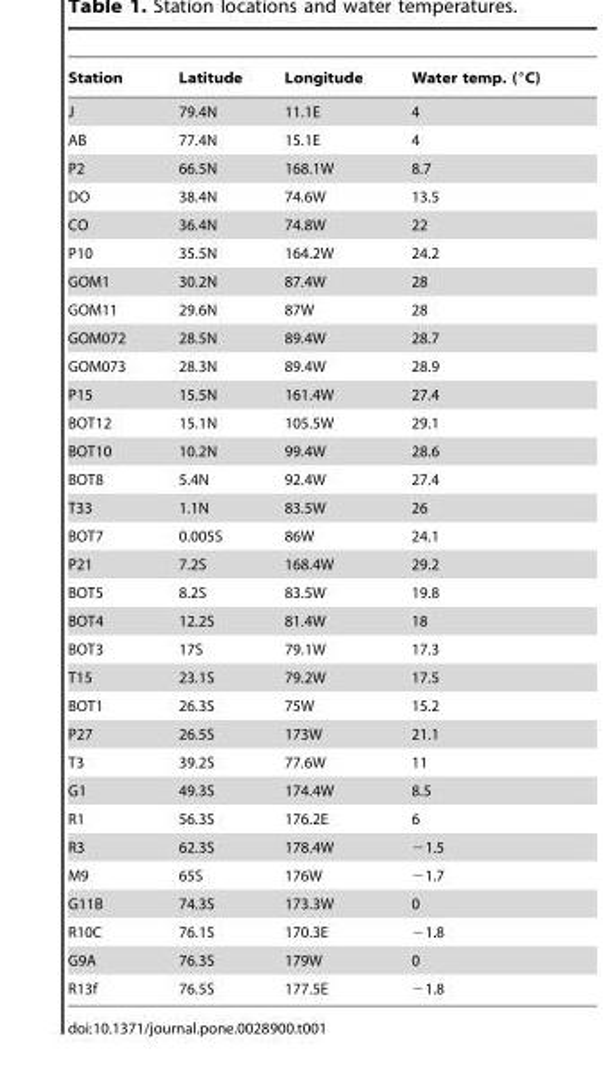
<table><thead><tr><td>Station</td><td>Latitude</td><td>Longitude</td><td>Water temp. (°C)</td></tr></thead><tbody><tr><td>J</td><td>79.4N</td><td>11.1E</td><td>4</td></tr><tr><td>AB</td><td>77.4N</td><td>15.1E</td><td>4</td></tr><tr><td>P2</td><td>66.5N</td><td>168.1W</td><td>8.7</td></tr><tr><td>DO</td><td>38.4N</td><td>74.6W</td><td>13.5</td></tr><tr><td>CO</td><td>36.4N</td><td>74.8W</td><td>22</td></tr><tr><td>P10</td><td>35.5N</td><td>164.2W</td><td>24.2</td></tr><tr><td>GOM1</td><td>30.2N</td><td>87.4W</td><td>28</td></tr><tr><td>GOM11</td><td>29.6N</td><td>87W</td><td>28</td></tr><tr><td>GOM072</td><td>28.5N</td><td>89.4W</td><td>28.7</td></tr><tr><td>GOM073</td><td>28.3N</td><td>89.4W</td><td>28.9</td></tr><tr><td>P15</td><td>15.5N</td><td>161.4W</td><td>27.4</td></tr><tr><td>BOT12</td><td>15.1N</td><td>105.5W</td><td>29.1</td></tr><tr><td>BOT10</td><td>10.2N</td><td>99.4W</td><td>28.6</td></tr><tr><td>BOT8</td><td>5.4N</td><td>92.4W</td><td>27.4</td></tr><tr><td>T33</td><td>1.1N</td><td>83.5W</td><td>26</td></tr><tr><td>BOT7</td><td>0.005S</td><td>86W</td><td>24.1</td></tr><tr><td>P21</td><td>7.2S</td><td>168.4W</td><td>29.2</td></tr><tr><td>BOT5</td><td>8.2S</td><td>83.5W</td><td>19.8</td></tr><tr><td>BOT4</td><td>12.2S</td><td>81.4W</td><td>18</td></tr><tr><td>BOT3</td><td>17S</td><td>79.1W</td><td>17.3</td></tr><tr><td>T15</td><td>23.1S</td><td>79.2W</td><td>17.5</td></tr><tr><td>BOT1</td><td>26.3S</td><td>75W</td><td>15.2</td></tr><tr><td>P27</td><td>26.5S</td><td>173W</td><td>21.1</td></tr><tr><td>T3</td><td>39.2S</td><td>77.6W</td><td>11</td></tr><tr><td>G1</td><td>49.3S</td><td>174.4W</td><td>8.5</td></tr><tr><td>R1</td><td>56.3S</td><td>176.2E</td><td>6</td></tr><tr><td>R3</td><td>62.3S</td><td>178.4W</td><td>−1.5</td></tr><tr><td>M9</td><td>65S</td><td>176W</td><td>−1.7</td></tr><tr><td>G11B</td><td>74.3S</td><td>173.3W</td><td>0</td></tr><tr><td>R10C</td><td>76.1S</td><td>170.3E</td><td>−1.8</td></tr><tr><td>G9A</td><td>76.3S</td><td>179W</td><td>0</td></tr><tr><td>R13f</td><td>76.5S</td><td>177.5E</td><td>−1.8</td></tr></tbody></table>